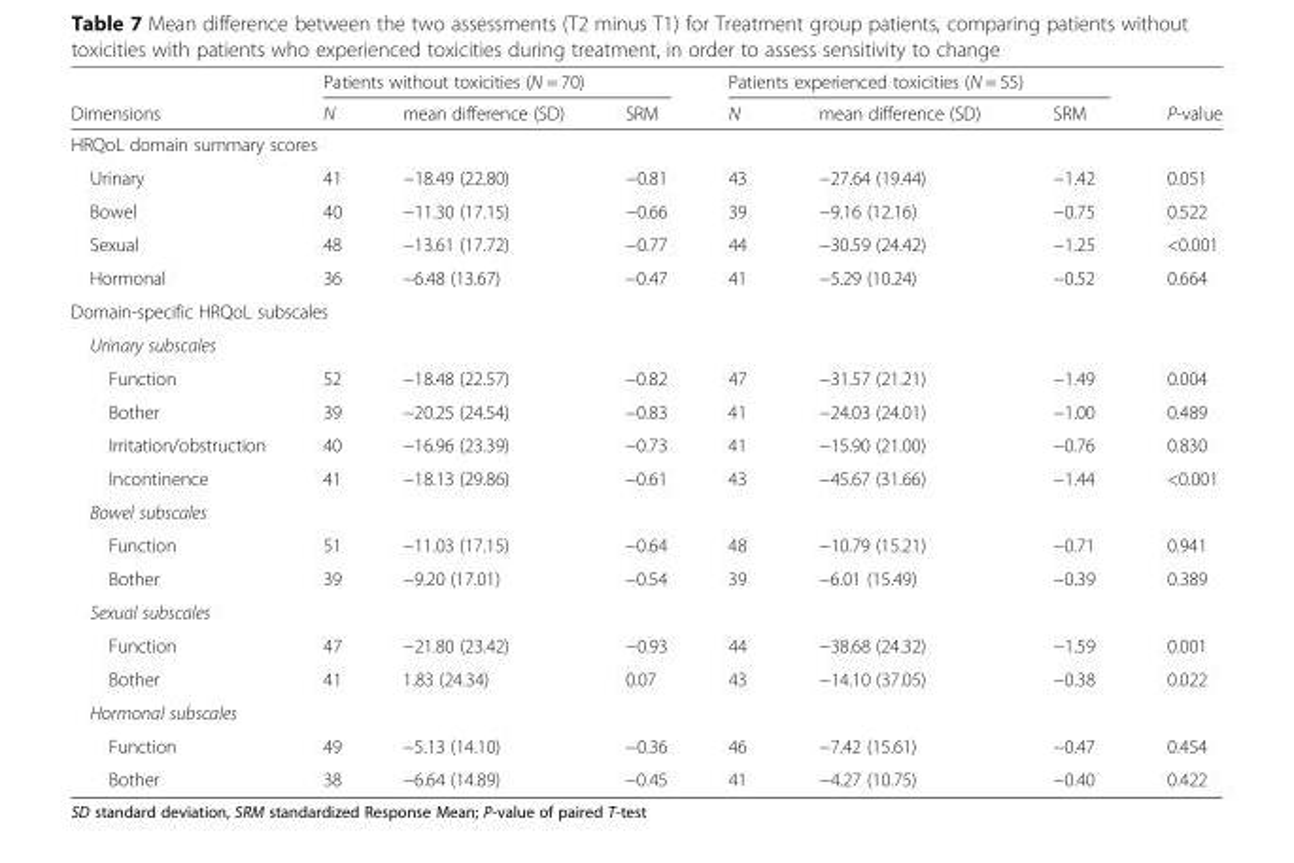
<table><thead><tr><td rowspan="2">Dimensions</td><td colspan="3">Patients without toxicities (N = 70)</td><td colspan="3">Patients experienced toxicities (N = 55)</td><td rowspan="2">P-value</td></tr><tr><td>N</td><td>mean difference (SD)</td><td>SRM</td><td>N</td><td>mean difference (SD)</td><td>SRM</td></tr></thead><tbody><tr><td colspan="8">HRQoL domain summary scores</td></tr><tr><td>Urinary</td><td>41</td><td>−18.49 (22.80)</td><td>−0.81</td><td>43</td><td>−27.64 (19.44)</td><td>−1.42</td><td>0.051</td></tr><tr><td>Bowel</td><td>40</td><td>−11.30 (17.15)</td><td>−0.66</td><td>39</td><td>−9.16 (12.16)</td><td>−0.75</td><td>0.522</td></tr><tr><td>Sexual</td><td>48</td><td>−13.61 (17.72)</td><td>−0.77</td><td>44</td><td>−30.59 (24.42)</td><td>−1.25</td><td>&lt;0.001</td></tr><tr><td>Hormonal</td><td>36</td><td>−6.48 (13.67)</td><td>−0.47</td><td>41</td><td>−5.29 (10.24)</td><td>−0.52</td><td>0.664</td></tr><tr><td colspan="8">Domain-specific HRQoL subscales</td></tr><tr><td colspan="8">Urinary subscales</td></tr><tr><td>Function</td><td>52</td><td>−18.48 (22.57)</td><td>−0.82</td><td>47</td><td>−31.57 (21.21)</td><td>−1.49</td><td>0.004</td></tr><tr><td>Bother</td><td>39</td><td>−20.25 (24.54)</td><td>−0.83</td><td>41</td><td>−24.03 (24.01)</td><td>−1.00</td><td>0.489</td></tr><tr><td>Irritation/obstruction</td><td>40</td><td>−16.96 (23.39)</td><td>−0.73</td><td>41</td><td>−15.90 (21.00)</td><td>−0.76</td><td>0.830</td></tr><tr><td>Incontinence</td><td>41</td><td>−18.13 (29.86)</td><td>−0.61</td><td>43</td><td>−45.67 (31.66)</td><td>−1.44</td><td>&lt;0.001</td></tr><tr><td colspan="8">Bowel subscales</td></tr><tr><td>Function</td><td>51</td><td>−11.03 (17.15)</td><td>−0.64</td><td>48</td><td>−10.79 (15.21)</td><td>−0.71</td><td>0.941</td></tr><tr><td>Bother</td><td>39</td><td>−9.20 (17.01)</td><td>−0.54</td><td>39</td><td>−6.01 (15.49)</td><td>−0.39</td><td>0.389</td></tr><tr><td colspan="8">Sexual subscales</td></tr><tr><td>Function</td><td>47</td><td>−21.80 (23.42)</td><td>−0.93</td><td>44</td><td>−38.68 (24.32)</td><td>−1.59</td><td>0.001</td></tr><tr><td>Bother</td><td>41</td><td>1.83 (24.34)</td><td>0.07</td><td>43</td><td>−14.10 (37.05)</td><td>−0.38</td><td>0.022</td></tr><tr><td colspan="8">Hormonal subscales</td></tr><tr><td>Function</td><td>49</td><td>−5.13 (14.10)</td><td>−0.36</td><td>46</td><td>−7.42 (15.61)</td><td>−0.47</td><td>0.454</td></tr><tr><td>Bother</td><td>38</td><td>−6.64 (14.89)</td><td>−0.45</td><td>41</td><td>−4.27 (10.75)</td><td>−0.40</td><td>0.422</td></tr></tbody></table>